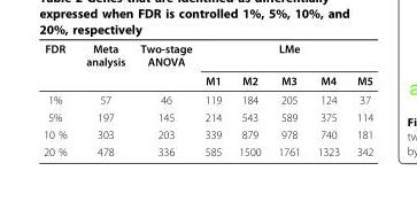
<table><thead><tr><td rowspan="2">FDR</td><td rowspan="2">Meta analysis</td><td rowspan="2">Two-stage ANOVA</td><td colspan="5">LMe</td></tr><tr><td>M1</td><td>M2</td><td>M3</td><td>M4</td><td>M5</td></tr></thead><tbody><tr><td>1%</td><td>57</td><td>46</td><td>119</td><td>184</td><td>205</td><td>124</td><td>37</td></tr><tr><td>5%</td><td>197</td><td>145</td><td>214</td><td>543</td><td>589</td><td>375</td><td>114</td></tr><tr><td>10 %</td><td>303</td><td>203</td><td>339</td><td>879</td><td>978</td><td>740</td><td>181</td></tr><tr><td>20 %</td><td>478</td><td>336</td><td>585</td><td>1500</td><td>1761</td><td>1323</td><td>342</td></tr></tbody></table>